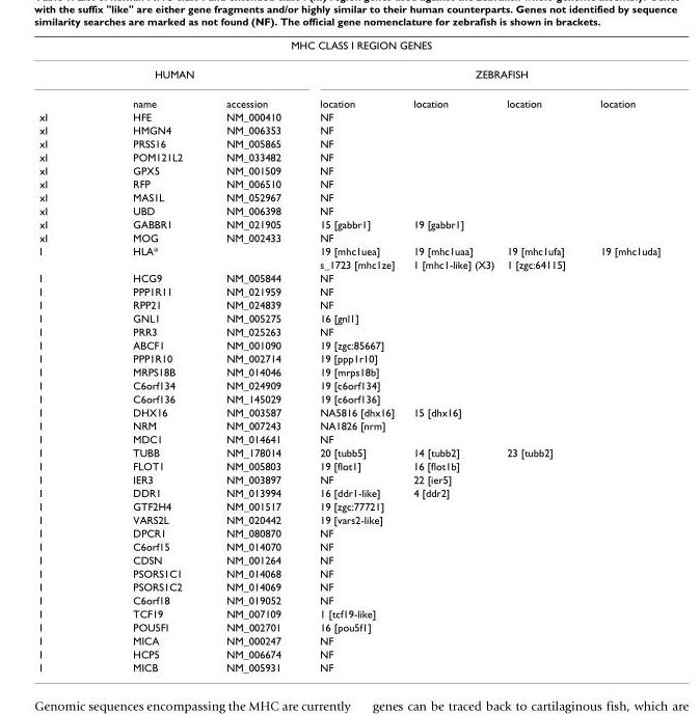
<table><thead><tr><td colspan="7">MHC CLASS I REGION GENES</td></tr><tr><td colspan="3">HUMAN</td><td colspan="4">ZEBRAFISH</td></tr><tr><td></td><td>name</td><td>accession</td><td>location</td><td>location</td><td>location</td><td>location</td></tr></thead><tbody><tr><td>xI</td><td>HFE</td><td>NM_000410</td><td>NF</td><td></td><td></td><td></td></tr><tr><td>xI</td><td>HMGN4</td><td>NM_006353</td><td>NF</td><td></td><td></td><td></td></tr><tr><td>xI</td><td>PRSS16</td><td>NM_005865</td><td>NF</td><td></td><td></td><td></td></tr><tr><td>xI</td><td>POM121L2</td><td>NM_033482</td><td>NF</td><td></td><td></td><td></td></tr><tr><td>xI</td><td>GPX5</td><td>NM_001509</td><td>NF</td><td></td><td></td><td></td></tr><tr><td>xI</td><td>RFP</td><td>NM_006510</td><td>NF</td><td></td><td></td><td></td></tr><tr><td>xI</td><td>MAS1L</td><td>NM_052967</td><td>NF</td><td></td><td></td><td></td></tr><tr><td>xI</td><td>UBD</td><td>NM_006398</td><td>NF</td><td></td><td></td><td></td></tr><tr><td>xI</td><td>GABBR1</td><td>NM_021905</td><td>15 [gabbr1]</td><td>19 [gabbr1]</td><td></td><td></td></tr><tr><td>xI</td><td>MOG</td><td>NM_002433</td><td>NF</td><td></td><td></td><td></td></tr><tr><td rowspan="2">I</td><td>HLA*</td><td></td><td>19 [mhc1uea]</td><td>19 [mhc1uaa]</td><td>19 [mhc1ufa]</td><td>19 [mhc1uda]</td></tr><tr><td></td><td></td><td>s_1723 [mhc1ze]</td><td>1 [mhc1-like] (X3)</td><td>1 [zgc:64115]</td><td></td></tr><tr><td>I</td><td>HCG9</td><td>NM_005844</td><td>NF</td><td></td><td></td><td></td></tr><tr><td>I</td><td>PPP1R11</td><td>NM_021959</td><td>NF</td><td></td><td></td><td></td></tr><tr><td>I</td><td>RPP21</td><td>NM_024839</td><td>NF</td><td></td><td></td><td></td></tr><tr><td>I</td><td>GNL1</td><td>NM_005275</td><td>16 [gnl1]</td><td></td><td></td><td></td></tr><tr><td>I</td><td>PRR3</td><td>NM_025263</td><td>NF</td><td></td><td></td><td></td></tr><tr><td>I</td><td>ABCF1</td><td>NM_001090</td><td>19 [zgc:85667]</td><td></td><td></td><td></td></tr><tr><td>I</td><td>PPP1R10</td><td>NM_002714</td><td>19 [ppp1r10]</td><td></td><td></td><td></td></tr><tr><td>I</td><td>MRPS18B</td><td>NM_014046</td><td>19 [mrps18b]</td><td></td><td></td><td></td></tr><tr><td>I</td><td>C6orf134</td><td>NM_024909</td><td>19 [c6orf134]</td><td></td><td></td><td></td></tr><tr><td>I</td><td>C6orf136</td><td>NM_145029</td><td>19 [c6orf136]</td><td></td><td></td><td></td></tr><tr><td>I</td><td>DHX16</td><td>NM_003587</td><td>NA5816 [dhx16]</td><td>15 [dhx16]</td><td></td><td></td></tr><tr><td>I</td><td>NRM</td><td>NM_007243</td><td>NA1826 [nrm]</td><td></td><td></td><td></td></tr><tr><td>I</td><td>MDC1</td><td>NM_014641</td><td>NF</td><td></td><td></td><td></td></tr><tr><td>I</td><td>TUBB</td><td>NM_178014</td><td>20 [tubb5]</td><td>14 [tubb2]</td><td>23 [tubb2]</td><td></td></tr><tr><td>I</td><td>FLOT1</td><td>NM_005803</td><td>19 [flot1]</td><td>16 [flot1b]</td><td></td><td></td></tr><tr><td>I</td><td>IER3</td><td>NM_003897</td><td>NF</td><td>22 [ier5]</td><td></td><td></td></tr><tr><td>I</td><td>DDR1</td><td>NM_013994</td><td>16 [ddr1-like]</td><td>4 [ddr2]</td><td></td><td></td></tr><tr><td>I</td><td>GTF2H4</td><td>NM_001517</td><td>19 [zgc:77721]</td><td></td><td></td><td></td></tr><tr><td>I</td><td>VARS2L</td><td>NM_020442</td><td>19 [vars2-like]</td><td></td><td></td><td></td></tr><tr><td>I</td><td>DPCR1</td><td>NM_080870</td><td>NF</td><td></td><td></td><td></td></tr><tr><td>I</td><td>C6orf15</td><td>NM_014070</td><td>NF</td><td></td><td></td><td></td></tr><tr><td>I</td><td>CDSN</td><td>NM_001264</td><td>NF</td><td></td><td></td><td></td></tr><tr><td>I</td><td>PSORS1C1</td><td>NM_014068</td><td>NF</td><td></td><td></td><td></td></tr><tr><td>I</td><td>PSORS1C2</td><td>NM_014069</td><td>NF</td><td></td><td></td><td></td></tr><tr><td>I</td><td>C6orf18</td><td>NM_019052</td><td>NF</td><td></td><td></td><td></td></tr><tr><td>I</td><td>TCF19</td><td>NM_007109</td><td>1 [tcf19-like]</td><td></td><td></td><td></td></tr><tr><td>I</td><td>POU5FI</td><td>NM_002701</td><td>16 [pou5f1]</td><td></td><td></td><td></td></tr><tr><td>I</td><td>MICA</td><td>NM_000247</td><td>NF</td><td></td><td></td><td></td></tr><tr><td>I</td><td>HCP5</td><td>NM_006674</td><td>NF</td><td></td><td></td><td></td></tr><tr><td>I</td><td>MICB</td><td>NM_005931</td><td>NF</td><td></td><td></td><td></td></tr></tbody></table>